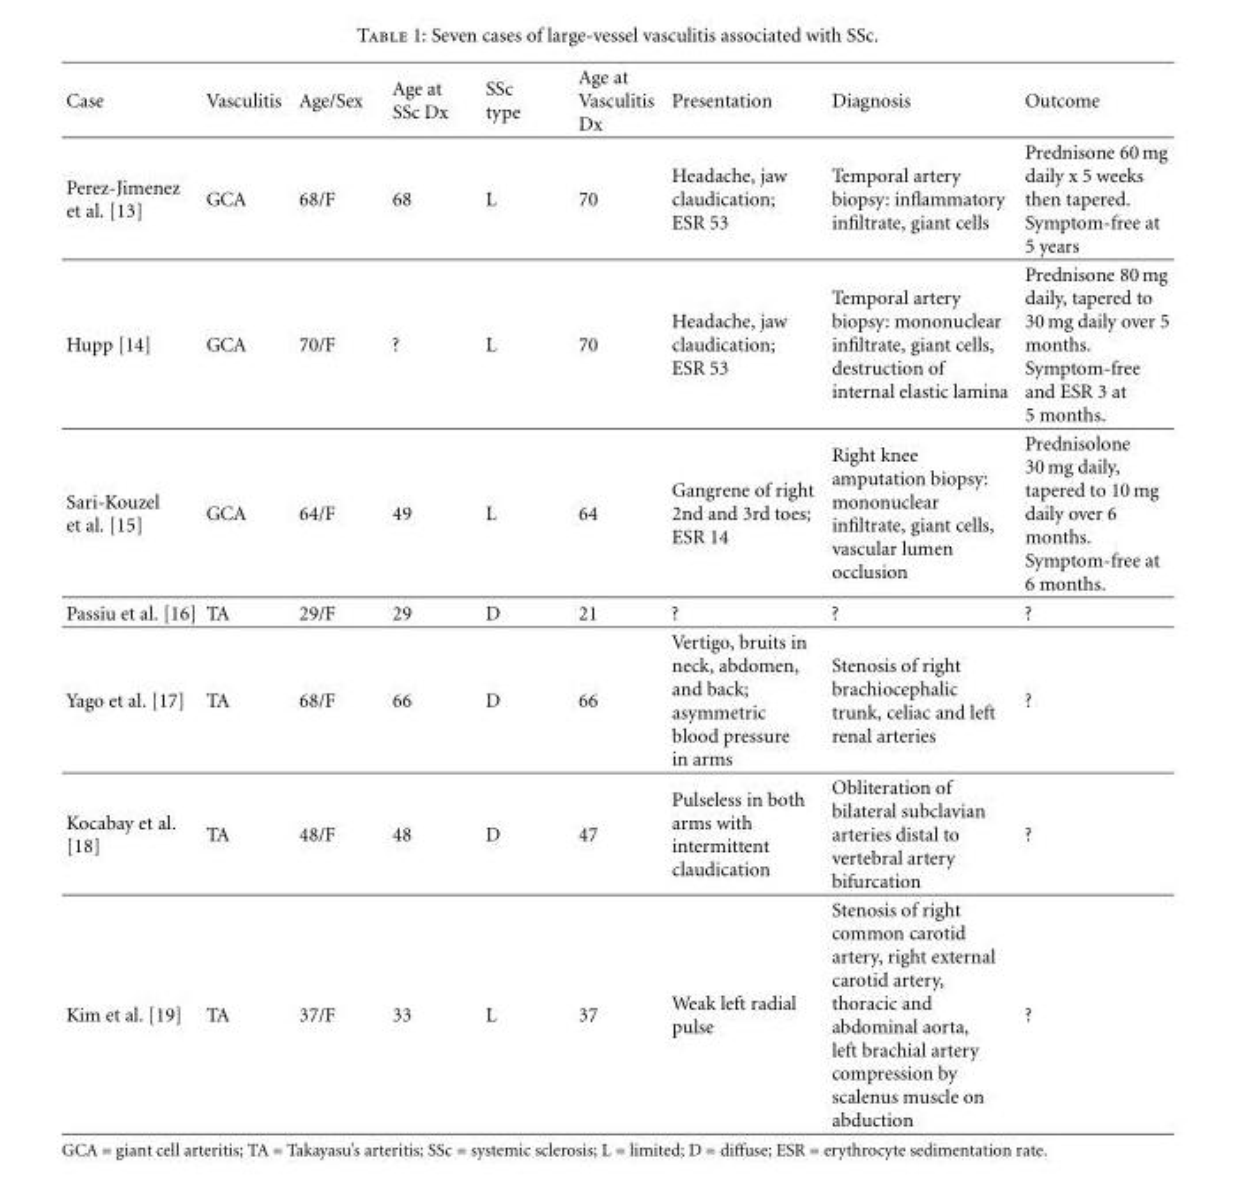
<table><thead><tr><td>Case</td><td>Vasculitis</td><td>Age/Sex</td><td>Age at SSc Dx</td><td>SSc type</td><td>Age at Vasculitis Dx</td><td>Presentation</td><td>Diagnosis</td><td>Outcome</td></tr></thead><tbody><tr><td>Perez-Jimenez et al. [13]</td><td>GCA</td><td>68/F</td><td>68</td><td>L</td><td>70</td><td>Headache, jaw claudication; ESR 53</td><td>Temporal artery biopsy: inflammatory infiltrate, giant cells</td><td>Prednisone 60 mg daily x 5 weeks then tapered. Symptom-free at 5 years</td></tr><tr><td>Hupp [14]</td><td>GCA</td><td>70/F</td><td>?</td><td>L</td><td>70</td><td>Headache, jaw claudication; ESR 53</td><td>Temporal artery biopsy: mononuclear infiltrate, giant cells, destruction of internal elastic lamina</td><td>Prednisone 80 mg daily, tapered to 30 mg daily over 5 months. Symptom-free and ESR 3 at 5 months.</td></tr><tr><td>Sari-Kouzel et al. [15]</td><td>GCA</td><td>64/F</td><td>49</td><td>L</td><td>64</td><td>Gangrene of right 2nd and 3rd toes; ESR 14</td><td>Right knee amputation biopsy: mononuclear infiltrate, giant cells, vascular lumen occlusion</td><td>Prednisolone 30 mg daily, tapered to 10 mg daily over 6 months. Symptom-free at 6 months.</td></tr><tr><td>Passiu et al. [16]</td><td>TA</td><td>29/F</td><td>29</td><td>D</td><td>21</td><td>?</td><td>?</td><td>?</td></tr><tr><td>Yago et al. [17]</td><td>TA</td><td>68/F</td><td>66</td><td>D</td><td>66</td><td>Vertigo, bruits in neck, abdomen, and back; asymmetric blood pressure in arms</td><td>Stenosis of right brachiocephalic trunk, celiac and left renal arteries</td><td>?</td></tr><tr><td>Kocabay et al. [18]</td><td>TA</td><td>48/F</td><td>48</td><td>D</td><td>47</td><td>Pulseless in both arms with intermittent claudication</td><td>Obliteration of bilateral subclavian arteries distal to vertebral artery bifurcation</td><td>?</td></tr><tr><td>Kim et al. [19]</td><td>TA</td><td>37/F</td><td>33</td><td>L</td><td>37</td><td>Weak left radial pulse</td><td>Stenosis of right common carotid artery, right external carotid artery, thoracic and abdominal aorta, left brachial artery compression by scalenus muscle on abduction</td><td>?</td></tr></tbody></table>